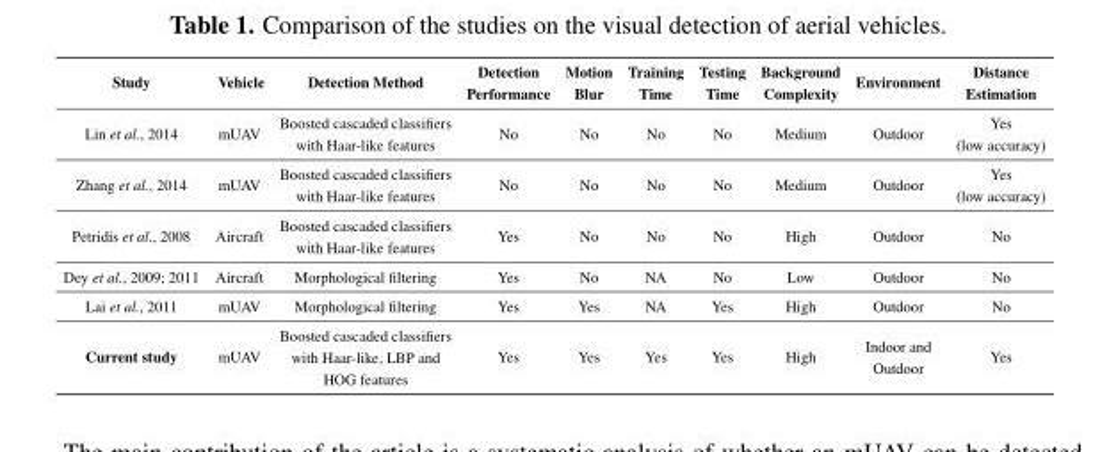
<table><thead><tr><td>Study</td><td>Vehicle</td><td>Detection Method</td><td>Detection Performance</td><td>Motion Blur</td><td>Training Time</td><td>Testing Time</td><td>Background Complexity</td><td>Environment</td><td>Distance Estimation</td></tr></thead><tbody><tr><td>Lin et al., 2014</td><td>mUAV</td><td>Boosted cascaded classifiers with Haar-like features</td><td>No</td><td>No</td><td>No</td><td>No</td><td>Medium</td><td>Outdoor</td><td>Yes (low accuracy)</td></tr><tr><td>Zhang et al., 2014</td><td>mUAV</td><td>Boosted cascaded classifiers with Haar-like features</td><td>No</td><td>No</td><td>No</td><td>No</td><td>Medium</td><td>Outdoor</td><td>Yes (low accuracy)</td></tr><tr><td>Petridis et al., 2008</td><td>Aircraft</td><td>Boosted cascaded classifiers with Haar-like features</td><td>Yes</td><td>No</td><td>No</td><td>No</td><td>High</td><td>Outdoor</td><td>No</td></tr><tr><td>Dey et al., 2009; 2011</td><td>Aircraft</td><td>Morphological filtering</td><td>Yes</td><td>No</td><td>NA</td><td>No</td><td>Low</td><td>Outdoor</td><td>No</td></tr><tr><td>Lai et al., 2011</td><td>mUAV</td><td>Morphological filtering</td><td>Yes</td><td>Yes</td><td>NA</td><td>Yes</td><td>High</td><td>Outdoor</td><td>No</td></tr><tr><td>Current study</td><td>mUAV</td><td>Boosted cascaded classifiers with Haar-like, LBP and HOG features</td><td>Yes</td><td>Yes</td><td>Yes</td><td>Yes</td><td>High</td><td>Indoor and Outdoor</td><td>Yes</td></tr></tbody></table>